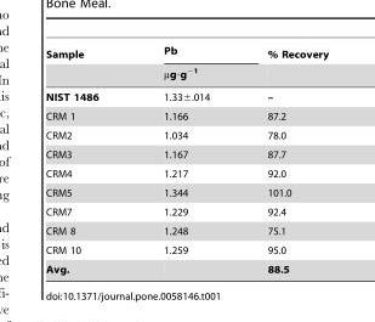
<table><thead><tr><td rowspan="2">Sample</td><td rowspan="2">Pb µg·g<sup>−1</sup></td><td rowspan="2">% Recovery</td></tr><tr></tr></thead><tbody><tr><td>NIST 1486</td><td>1.33±.014</td><td>–</td></tr><tr><td>CRM 1</td><td>1.166</td><td>87.2</td></tr><tr><td>CRM2</td><td>1.034</td><td>78.0</td></tr><tr><td>CRM3</td><td>1.167</td><td>87.7</td></tr><tr><td>CRM4</td><td>1.217</td><td>92.0</td></tr><tr><td>CRM5</td><td>1.344</td><td>101.0</td></tr><tr><td>CRM7</td><td>1.229</td><td>92.4</td></tr><tr><td>CRM 8</td><td>1.248</td><td>75.1</td></tr><tr><td>CRM 10</td><td>1.259</td><td>95.0</td></tr><tr><td>Avg.</td><td></td><td>88.5</td></tr></tbody></table>